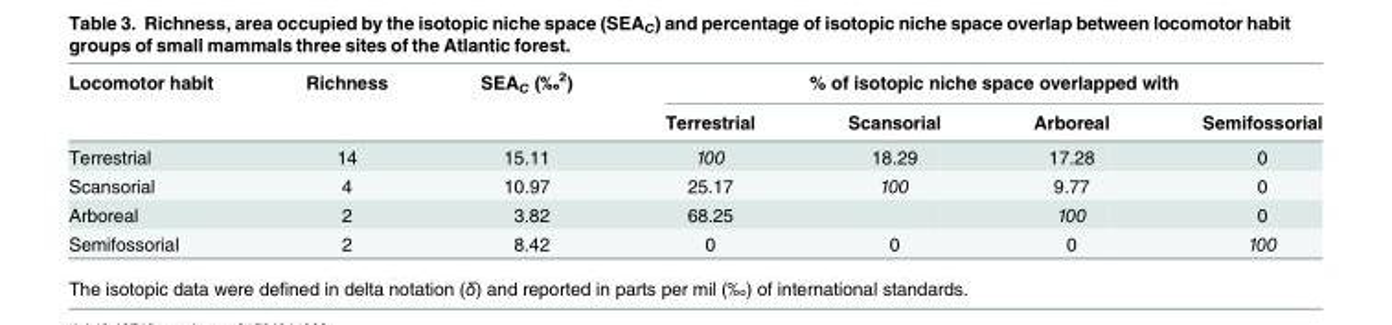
<table><thead><tr><td rowspan="2">Locomotor habit</td><td rowspan="2">Richness</td><td rowspan="2">SEA<sub>C</sub> (‰<sup>2</sup>)</td><td colspan="4">% of isotopic niche space overlapped with</td></tr><tr><td>Terrestrial</td><td>Scansorial</td><td>Arboreal</td><td>Semifossorial</td></tr></thead><tbody><tr><td>Terrestrial</td><td>14</td><td>15.11</td><td>100</td><td>18.29</td><td>17.28</td><td>0</td></tr><tr><td>Scansorial</td><td>4</td><td>10.97</td><td>25.17</td><td>100</td><td>9.77</td><td>0</td></tr><tr><td>Arboreal</td><td>2</td><td>3.82</td><td>68.25</td><td></td><td>100</td><td>0</td></tr><tr><td>Semifossorial</td><td>2</td><td>8.42</td><td>0</td><td>0</td><td>0</td><td>100</td></tr></tbody></table>